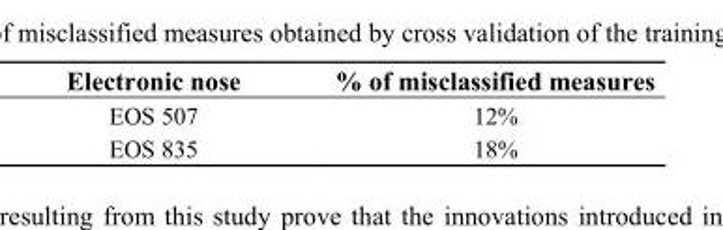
<table><thead><tr><td>Electronic nose</td><td>% of misclassified measures</td></tr></thead><tbody><tr><td>EOS 507</td><td>12%</td></tr><tr><td>EOS 835</td><td>18%</td></tr></tbody></table>